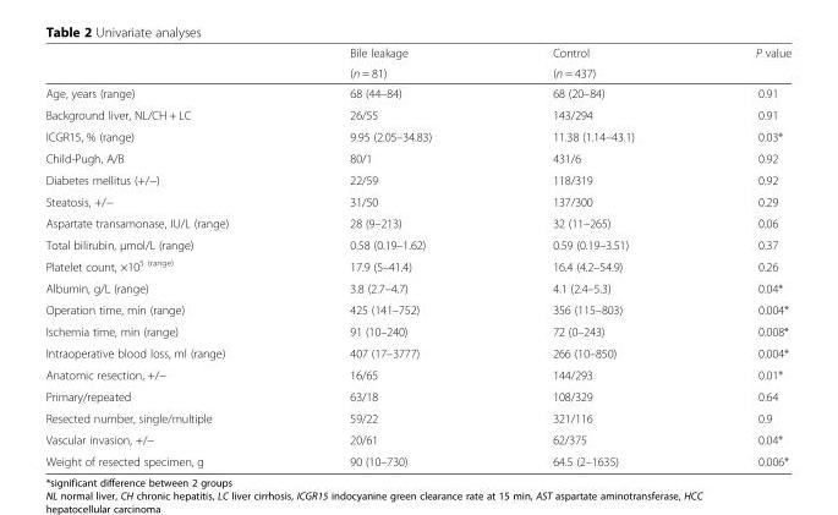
<table><thead><tr><td rowspan="2"></td><td rowspan="2">Bile leakage (n = 81)</td><td rowspan="2">Control (n = 437)</td><td rowspan="2">P value</td></tr><tr></tr></thead><tbody><tr><td>Age, years (range)</td><td>68 (44–84)</td><td>68 (20–84)</td><td>0.91</td></tr><tr><td>Background liver, NL/CH + LC</td><td>26/55</td><td>143/294</td><td>0.91</td></tr><tr><td>ICGR15, % (range)</td><td>9.95 (2.05–34.83)</td><td>11.38 (1.14–43.1)</td><td>0.03*</td></tr><tr><td>Child-Pugh, A/B</td><td>80/1</td><td>431/6</td><td>0.92</td></tr><tr><td>Diabetes mellitus (+/−)</td><td>22/59</td><td>118/319</td><td>0.92</td></tr><tr><td>Steatosis, +/−</td><td>31/50</td><td>137/300</td><td>0.29</td></tr><tr><td>Aspartate transamonase, IU/L (range)</td><td>28 (9–213)</td><td>32 (11–265)</td><td>0.06</td></tr><tr><td>Total bilirubin, μmol/L (range)</td><td>0.58 (0.19–1.62)</td><td>0.59 (0.19–3.51)</td><td>0.37</td></tr><tr><td>Platelet count, ×10<sup>5 (range)</sup></td><td>17.9 (5–41.4)</td><td>16.4 (4.2–54.9)</td><td>0.26</td></tr><tr><td>Albumin, g/L (range)</td><td>3.8 (2.7–4.7)</td><td>4.1 (2.4–5.3)</td><td>0.04*</td></tr><tr><td>Operation time, min (range)</td><td>425 (141–752)</td><td>356 (115–803)</td><td>0.004*</td></tr><tr><td>Ischemia time, min (range)</td><td>91 (10–240)</td><td>72 (0–243)</td><td>0.008*</td></tr><tr><td>Intraoperative blood loss, ml (range)</td><td>407 (17–3777)</td><td>266 (10–850)</td><td>0.004*</td></tr><tr><td>Anatomic resection, +/−</td><td>16/65</td><td>144/293</td><td>0.01*</td></tr><tr><td>Primary/repeated</td><td>63/18</td><td>108/329</td><td>0.64</td></tr><tr><td>Resected number, single/multiple</td><td>59/22</td><td>321/116</td><td>0.9</td></tr><tr><td>Vascular invasion, +/−</td><td>20/61</td><td>62/375</td><td>0.04*</td></tr><tr><td>Weight of resected specimen, g</td><td>90 (10–730)</td><td>64.5 (2–1635)</td><td>0.006*</td></tr></tbody></table>